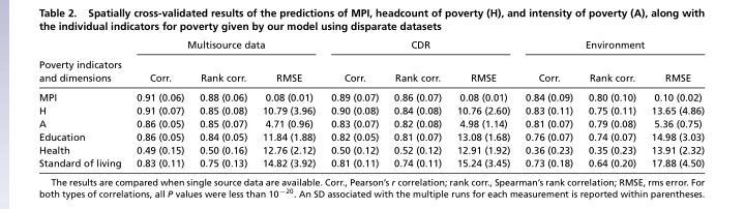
<table><thead><tr><td rowspan="2">Poverty indicators and dimensions</td><td colspan="3">Multisource data</td><td colspan="3">CDR</td><td colspan="3">Environment</td></tr><tr><td>Corr.</td><td>Rank corr.</td><td>RMSE</td><td>Corr.</td><td>Rank corr.</td><td>RMSE</td><td>Corr.</td><td>Rank corr.</td><td>RMSE</td></tr></thead><tbody><tr><td>MPI</td><td>0.91 (0.06)</td><td>0.88 (0.06)</td><td>0.08 (0.01)</td><td>0.89 (0.07)</td><td>0.86 (0.07)</td><td>0.08 (0.01)</td><td>0.84 (0.09)</td><td>0.80 (0.10)</td><td>0.10 (0.02)</td></tr><tr><td>H</td><td>0.91 (0.07)</td><td>0.85 (0.08)</td><td>10.79 (3.96)</td><td>0.90 (0.08)</td><td>0.84 (0.08)</td><td>10.76 (2.60)</td><td>0.83 (0.11)</td><td>0.75 (0.11)</td><td>13.65 (4.86)</td></tr><tr><td>A</td><td>0.86 (0.05)</td><td>0.85 (0.07)</td><td>4.71 (0.96)</td><td>0.83 (0.07)</td><td>0.82 (0.08)</td><td>4.98 (1.14)</td><td>0.81 (0.07)</td><td>0.79 (0.08)</td><td>5.36 (0.75)</td></tr><tr><td>Education</td><td>0.86 (0.05)</td><td>0.84 (0.05)</td><td>11.84 (1.88)</td><td>0.82 (0.05)</td><td>0.81 (0.07)</td><td>13.08 (1.68)</td><td>0.76 (0.07)</td><td>0.74 (0.07)</td><td>14.98 (3.03)</td></tr><tr><td>Health</td><td>0.49 (0.15)</td><td>0.50 (0.16)</td><td>12.76 (2.12)</td><td>0.50 (0.12)</td><td>0.52 (0.12)</td><td>12.91 (1.92)</td><td>0.36 (0.23)</td><td>0.35 (0.23)</td><td>13.91 (2.32)</td></tr><tr><td>Standard of living</td><td>0.83 (0.11)</td><td>0.75 (0.13)</td><td>14.82 (3.92)</td><td>0.81 (0.11)</td><td>0.74 (0.11)</td><td>15.24 (3.45)</td><td>0.73 (0.18)</td><td>0.64 (0.20)</td><td>17.88 (4.50)</td></tr></tbody></table>